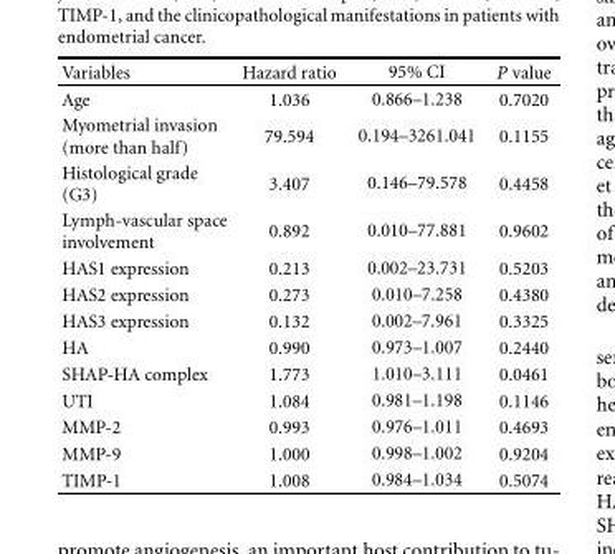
<table><thead><tr><td>Variables</td><td>Hazard ratio</td><td>95% CI</td><td>P value</td></tr></thead><tbody><tr><td>Age</td><td>1.036</td><td>0.866–1.238</td><td>0.7020</td></tr><tr><td>Myometrial invasion (more than half)</td><td>79.594</td><td>0.194–3261.041</td><td>0.1155</td></tr><tr><td>Histological grade (G3)</td><td>3.407</td><td>0.146–79.578</td><td>0.4458</td></tr><tr><td>Lymph-vascular space involvement</td><td>0.892</td><td>0.010–77.881</td><td>0.9602</td></tr><tr><td>HAS1 expression</td><td>0.213</td><td>0.002–23.731</td><td>0.5203</td></tr><tr><td>HAS2 expression</td><td>0.273</td><td>0.010–7.258</td><td>0.4380</td></tr><tr><td>HAS3 expression</td><td>0.132</td><td>0.002–7.961</td><td>0.3325</td></tr><tr><td>HA</td><td>0.990</td><td>0.973–1.007</td><td>0.2440</td></tr><tr><td>SHAP-HA complex</td><td>1.773</td><td>1.010–3.111</td><td>0.0461</td></tr><tr><td>UTI</td><td>1.084</td><td>0.981–1.198</td><td>0.1146</td></tr><tr><td>MMP-2</td><td>0.993</td><td>0.976–1.011</td><td>0.4693</td></tr><tr><td>MMP-9</td><td>1.000</td><td>0.998–1.002</td><td>0.9204</td></tr><tr><td>TIMP-1</td><td>1.008</td><td>0.984–1.034</td><td>0.5074</td></tr></tbody></table>